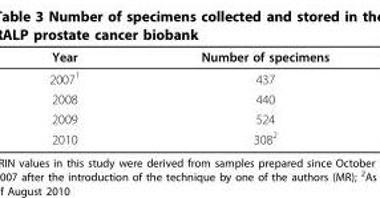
<table><thead><tr><td>Year</td><td>Number of specimens</td></tr></thead><tbody><tr><td>2007<sup>1</sup></td><td>437</td></tr><tr><td>2008</td><td>440</td></tr><tr><td>2009</td><td>524</td></tr><tr><td>2010</td><td>308<sup>2</sup></td></tr></tbody></table>